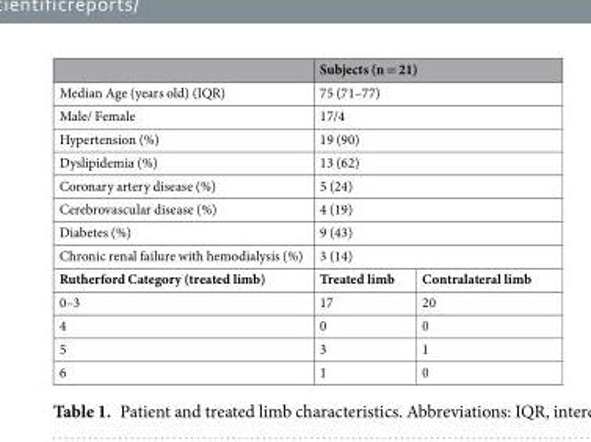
<table><thead><tr><td></td><td colspan="2">Subjects (n = 21)</td></tr></thead><tbody><tr><td>Median Age (years old) (IQR)</td><td colspan="2">75 (71–77)</td></tr><tr><td>Male/ Female</td><td colspan="2">17/4</td></tr><tr><td>Hypertension (%)</td><td colspan="2">19 (90)</td></tr><tr><td>Dyslipidemia (%)</td><td colspan="2">13 (62)</td></tr><tr><td>Coronary artery disease (%)</td><td colspan="2">5 (24)</td></tr><tr><td>Cerebrovascular disease (%)</td><td colspan="2">4 (19)</td></tr><tr><td>Diabetes (%)</td><td colspan="2">9 (43)</td></tr><tr><td>Chronic renal failure with hemodialysis (%)</td><td colspan="2">3 (14)</td></tr><tr><td>Rutherford Category (treated limb)</td><td>Treated limb</td><td>Contralateral limb</td></tr><tr><td>0–3</td><td>17</td><td>20</td></tr><tr><td>4</td><td>0</td><td>0</td></tr><tr><td>5</td><td>3</td><td>1</td></tr><tr><td>6</td><td>1</td><td>0</td></tr></tbody></table>